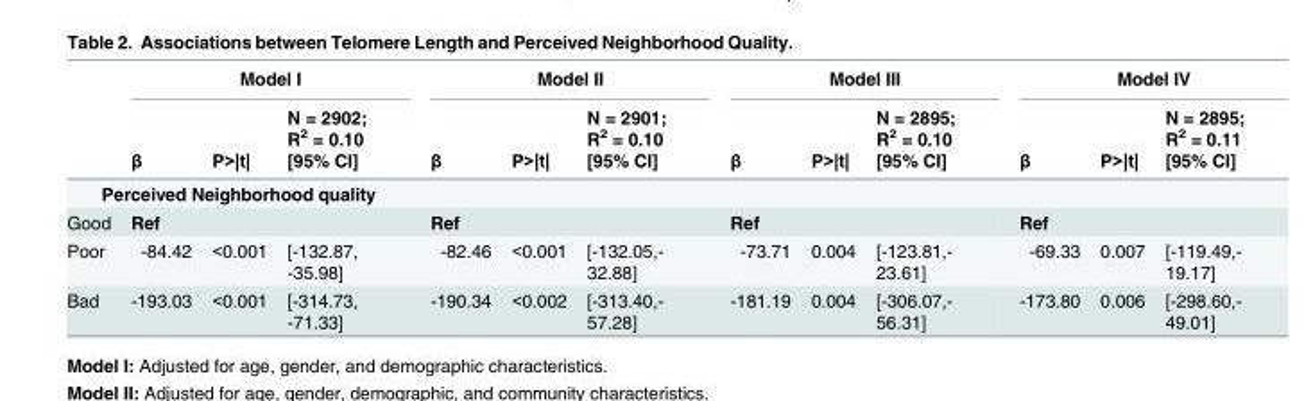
<table><thead><tr><td rowspan="3"></td><td colspan="3">Model I</td><td colspan="3">Model II</td><td colspan="3">Model III</td><td colspan="3">Model IV</td></tr><tr><td rowspan="2">β</td><td rowspan="2">P&gt;|t|</td><td rowspan="2">N = 2902; R<sup>2</sup> = 0.10 [95% CI]</td><td rowspan="2">β</td><td rowspan="2">P&gt;|t|</td><td rowspan="2">N = 2901; R<sup>2</sup> = 0.10 [95% CI]</td><td rowspan="2">β</td><td rowspan="2">P&gt;|t|</td><td rowspan="2">N = 2895; R<sup>2</sup> = 0.10 [95% CI]</td><td rowspan="2">β</td><td rowspan="2">P&gt;|t|</td><td rowspan="2">N = 2895; R<sup>2</sup> = 0.11 [95% CI]</td></tr><tr></tr></thead><tbody><tr><td colspan="13">Perceived Neighborhood quality</td></tr><tr><td>Good</td><td>Ref</td><td></td><td></td><td>Ref</td><td></td><td></td><td>Ref</td><td></td><td></td><td>Ref</td><td></td><td></td></tr><tr><td>Poor</td><td>-84.42</td><td>&lt;0.001</td><td>[-132.87, -35.98]</td><td>-82.46</td><td>&lt;0.001</td><td>[-132.05,- 32.88]</td><td>-73.71</td><td>0.004</td><td>[-123.81,- 23.61]</td><td>-69.33</td><td>0.007</td><td>[-119.49,- 19.17]</td></tr><tr><td>Bad</td><td>-193.03</td><td>&lt;0.001</td><td>[-314.73, -71.33]</td><td>-190.34</td><td>&lt;0.002</td><td>[-313.40,- 57.28]</td><td>-181.19</td><td>0.004</td><td>[-306.07,- 56.31]</td><td>-173.80</td><td>0.006</td><td>[-298.60,- 49.01]</td></tr></tbody></table>